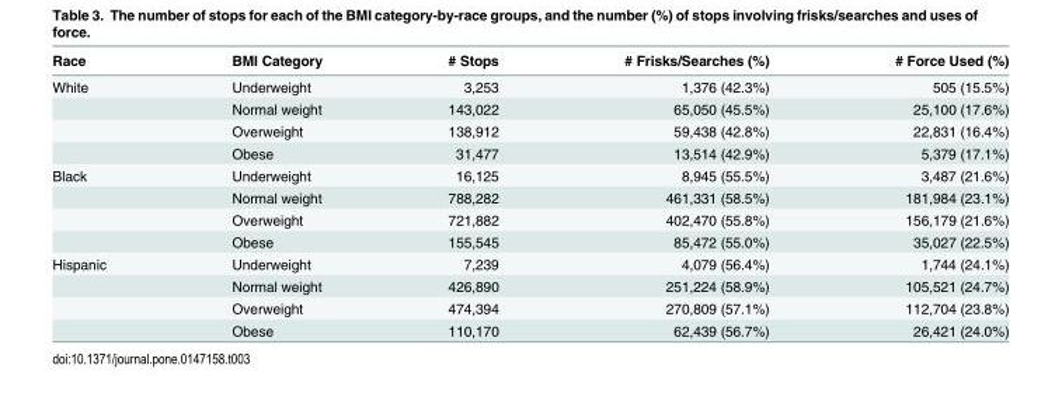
<table><thead><tr><td>Race</td><td>BMI Category</td><td># Stops</td><td># Frisks/Searches (%)</td><td># Force Used (%)</td></tr></thead><tbody><tr><td rowspan="4">White</td><td>Underweight</td><td>3,253</td><td>1,376 (42.3%)</td><td>505 (15.5%)</td></tr><tr><td>Normal weight</td><td>143,022</td><td>65,050 (45.5%)</td><td>25,100 (17.6%)</td></tr><tr><td>Overweight</td><td>138,912</td><td>59,438 (42.8%)</td><td>22,831 (16.4%)</td></tr><tr><td>Obese</td><td>31,477</td><td>13,514 (42.9%)</td><td>5,379 (17.1%)</td></tr><tr><td rowspan="4">Black</td><td>Underweight</td><td>16,125</td><td>8,945 (55.5%)</td><td>3,487 (21.6%)</td></tr><tr><td>Normal weight</td><td>788,282</td><td>461,331 (58.5%)</td><td>181,984 (23.1%)</td></tr><tr><td>Overweight</td><td>721,882</td><td>402,470 (55.8%)</td><td>156,179 (21.6%)</td></tr><tr><td>Obese</td><td>155,545</td><td>85,472 (55.0%)</td><td>35,027 (22.5%)</td></tr><tr><td rowspan="4">Hispanic</td><td>Underweight</td><td>7,239</td><td>4,079 (56.4%)</td><td>1,744 (24.1%)</td></tr><tr><td>Normal weight</td><td>426,890</td><td>251,224 (58.9%)</td><td>105,521 (24.7%)</td></tr><tr><td>Overweight</td><td>474,394</td><td>270,809 (57.1%)</td><td>112,704 (23.8%)</td></tr><tr><td>Obese</td><td>110,170</td><td>62,439 (56.7%)</td><td>26,421 (24.0%)</td></tr></tbody></table>